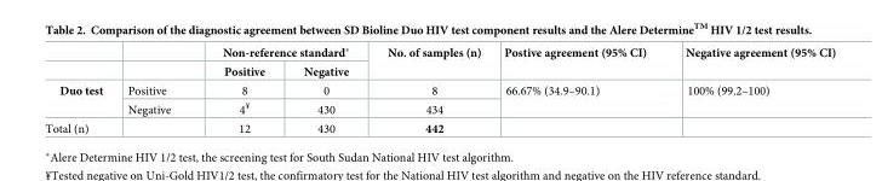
<table><thead><tr><td rowspan="2"></td><td rowspan="2"></td><td colspan="2">Non-reference standard*</td><td rowspan="2">No. of samples (n)</td><td rowspan="2">Postive agreement (95% CI)</td><td rowspan="2">Negative agreement (95% CI)</td></tr><tr><td>Positive</td><td>Negative</td></tr></thead><tbody><tr><td rowspan="2">Duo test</td><td>Positive</td><td>8</td><td>0</td><td>8</td><td rowspan="2">66.67% (34.9–90.1)</td><td rowspan="2">100% (99.2–100)</td></tr><tr><td>Negative</td><td>4<sup>¥</sup></td><td>430</td><td>434</td></tr><tr><td>Total (n)</td><td></td><td>12</td><td>430</td><td>442</td><td></td><td></td></tr></tbody></table>